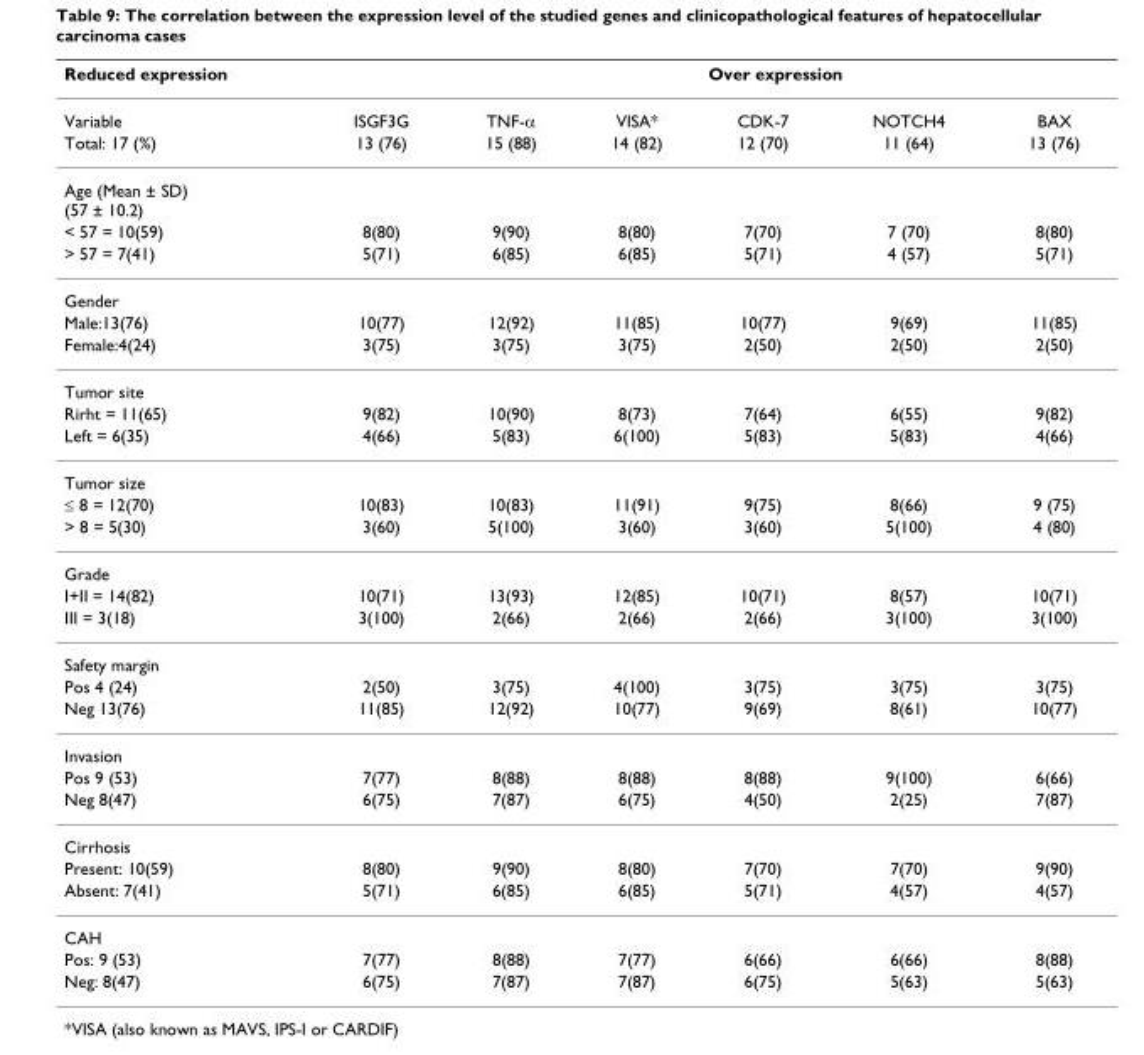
<table><thead><tr><td colspan="4">Reduced expression</td><td colspan="3">Over expression</td></tr><tr><td>Variable</td><td>ISGF3G</td><td>TNF-α</td><td>VISA*</td><td>CDK-7</td><td>NOTCH4</td><td>BAX</td></tr></thead><tbody><tr><td>Total: 17 (%)</td><td>13 (76)</td><td>15 (88)</td><td>14 (82)</td><td>12 (70)</td><td>11 (64)</td><td>13 (76)</td></tr><tr><td colspan="7">Age (Mean ± SD) (57 ± 10.2)</td></tr><tr><td>&lt; 57 = 10(59)</td><td>8(80)</td><td>9(90)</td><td>8(80)</td><td>7(70)</td><td>7 (70)</td><td>8(80)</td></tr><tr><td>&gt; 57 = 7(41)</td><td>5(71)</td><td>6(85)</td><td>6(85)</td><td>5(71)</td><td>4 (57)</td><td>5(71)</td></tr><tr><td colspan="7">Gender</td></tr><tr><td>Male:13(76)</td><td>10(77)</td><td>12(92)</td><td>11(85)</td><td>10(77)</td><td>9(69)</td><td>11(85)</td></tr><tr><td>Female:4(24)</td><td>3(75)</td><td>3(75)</td><td>3(75)</td><td>2(50)</td><td>2(50)</td><td>2(50)</td></tr><tr><td colspan="7">Tumor site</td></tr><tr><td>Rirht = 11(65)</td><td>9(82)</td><td>10(90)</td><td>8(73)</td><td>7(64)</td><td>6(55)</td><td>9(82)</td></tr><tr><td>Left = 6(35)</td><td>4(66)</td><td>5(83)</td><td>6(100)</td><td>5(83)</td><td>5(83)</td><td>4(66)</td></tr><tr><td colspan="7">Tumor size</td></tr><tr><td>≤ 8 = 12(70)</td><td>10(83)</td><td>10(83)</td><td>11(91)</td><td>9(75)</td><td>8(66)</td><td>9 (75)</td></tr><tr><td>&gt; 8 = 5(30)</td><td>3(60)</td><td>5(100)</td><td>3(60)</td><td>3(60)</td><td>5(100)</td><td>4 (80)</td></tr><tr><td colspan="7">Grade</td></tr><tr><td>I+II = 14(82)</td><td>10(71)</td><td>13(93)</td><td>12(85)</td><td>10(71)</td><td>8(57)</td><td>10(71)</td></tr><tr><td>III = 3(18)</td><td>3(100)</td><td>2(66)</td><td>2(66)</td><td>2(66)</td><td>3(100)</td><td>3(100)</td></tr><tr><td colspan="7">Safety margin</td></tr><tr><td>Pos 4 (24)</td><td>2(50)</td><td>3(75)</td><td>4(100)</td><td>3(75)</td><td>3(75)</td><td>3(75)</td></tr><tr><td>Neg 13(76)</td><td>11(85)</td><td>12(92)</td><td>10(77)</td><td>9(69)</td><td>8(61)</td><td>10(77)</td></tr><tr><td colspan="7">Invasion</td></tr><tr><td>Pos 9 (53)</td><td>7(77)</td><td>8(88)</td><td>8(88)</td><td>8(88)</td><td>9(100)</td><td>6(66)</td></tr><tr><td>Neg 8(47)</td><td>6(75)</td><td>7(87)</td><td>6(75)</td><td>4(50)</td><td>2(25)</td><td>7(87)</td></tr><tr><td colspan="7">Cirrhosis</td></tr><tr><td>Present: 10(59)</td><td>8(80)</td><td>9(90)</td><td>8(80)</td><td>7(70)</td><td>7(70)</td><td>9(90)</td></tr><tr><td>Absent: 7(41)</td><td>5(71)</td><td>6(85)</td><td>6(85)</td><td>5(71)</td><td>4(57)</td><td>4(57)</td></tr><tr><td colspan="7">CAH</td></tr><tr><td>Pos: 9 (53)</td><td>7(77)</td><td>8(88)</td><td>7(77)</td><td>6(66)</td><td>6(66)</td><td>8(88)</td></tr><tr><td>Neg: 8(47)</td><td>6(75)</td><td>7(87)</td><td>7(87)</td><td>6(75)</td><td>5(63)</td><td>5(63)</td></tr></tbody></table>